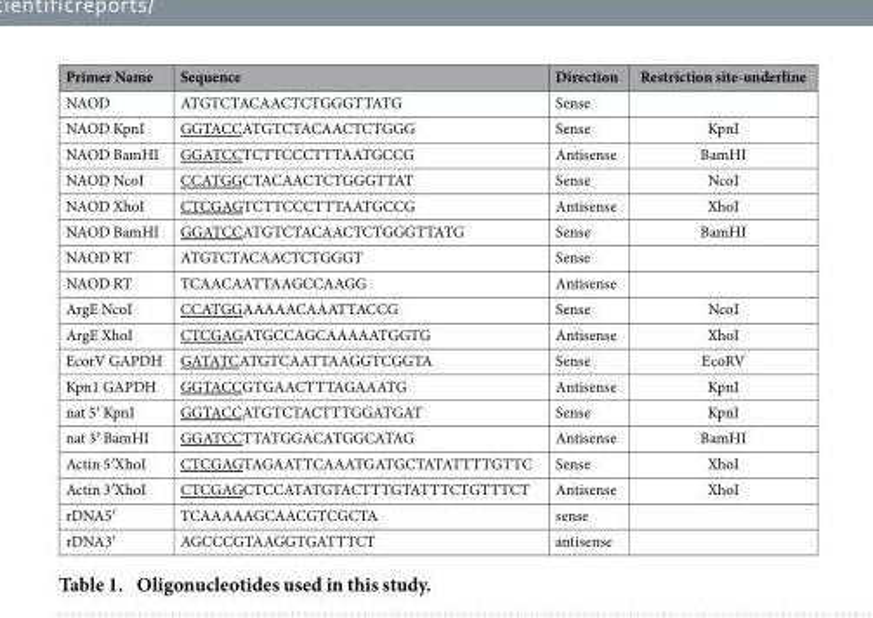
<table><thead><tr><td>Primer Name</td><td>Sequence</td><td>Direction</td><td>Restriction site-underline</td></tr></thead><tbody><tr><td>NAOD</td><td>ATGTCTACAACTCTGGGTTATG</td><td>Sense</td><td></td></tr><tr><td>NAOD KpnI</td><td>GGTACCATGTCTACAACTCTGGG</td><td>Sense</td><td>KpnI</td></tr><tr><td>NAOD BamHI</td><td>GGATCCTCTTCCCTTTAATGCCG</td><td>Antisense</td><td>BamHI</td></tr><tr><td>NAOD NcoI</td><td>CCATGGCTACAACTCTGGGTTAT</td><td>Sense</td><td>NcoI</td></tr><tr><td>NAOD XhoI</td><td>CTCGAGTCTTCCCTTTAATGCCG</td><td>Antisense</td><td>XhoI</td></tr><tr><td>NAOD BamHI</td><td>GGATCCATGTCTACAACTCTGGGTTATG</td><td>Sense</td><td>BamHI</td></tr><tr><td>NAOD RT</td><td>ATGTCTACAACTCTGGGT</td><td>Sense</td><td></td></tr><tr><td>NAOD RT</td><td>TCAACAATTAAGCCAAGG</td><td>Antisense</td><td></td></tr><tr><td>ArgE NcoI</td><td>CCATGGAAAAACAAATTACCG</td><td>Sense</td><td>NcoI</td></tr><tr><td>ArgE XhoI</td><td>CTCGAGATGCCAGCAAAAATGGTG</td><td>Antisense</td><td>XhoI</td></tr><tr><td>EcorV GAPDH</td><td>GATATCATGTCAATTAAGGTCGGTA</td><td>Sense</td><td>EcoRV</td></tr><tr><td>Kpn1 GAPDH</td><td>GGTACCGTGAACTTTAGAAATG</td><td>Antisense</td><td>KpnI</td></tr><tr><td>nat 5′ KpnI</td><td>GGTACCATGTCTACTTTGGATGAT</td><td>Sense</td><td>KpnI</td></tr><tr><td>nat 3′ BamHI</td><td>GGATCCTTATGGACATGGCATAG</td><td>Antisense</td><td>BamHI</td></tr><tr><td>Actin 5′ XhoI</td><td>CTCGAGTAGAATTCAAATGATGCTATATTTTGTTC</td><td>Sense</td><td>XhoI</td></tr><tr><td>Actin 3′ XhoI</td><td>CTCGAGCTCCATATGTACTTTGTATTTCTGTTTCT</td><td>Antisense</td><td>XhoI</td></tr><tr><td>rDNA5′</td><td>TCAAAAAGCAACGTCGCTA</td><td>sense</td><td></td></tr><tr><td>rDNA3′</td><td>AGCCCGTAAGGTGATTTCT</td><td>antisense</td><td></td></tr></tbody></table>